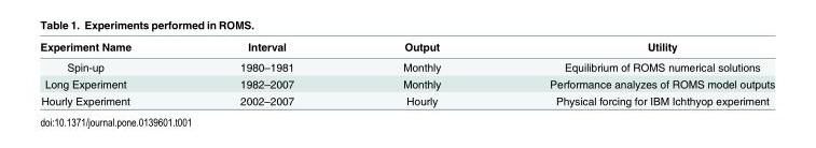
<table><thead><tr><td>Experiment Name</td><td>Interval</td><td>Output</td><td>Utility</td></tr></thead><tbody><tr><td>Spin-up</td><td>1980–1981</td><td>Monthly</td><td>Equilibrium of ROMS numerical solutions</td></tr><tr><td>Long Experiment</td><td>1982–2007</td><td>Monthly</td><td>Performance analyzes of ROMS model outputs</td></tr><tr><td>Hourly Experiment</td><td>2002–2007</td><td>Hourly</td><td>Physical forcing for IBM Ichthyop experiment</td></tr></tbody></table>